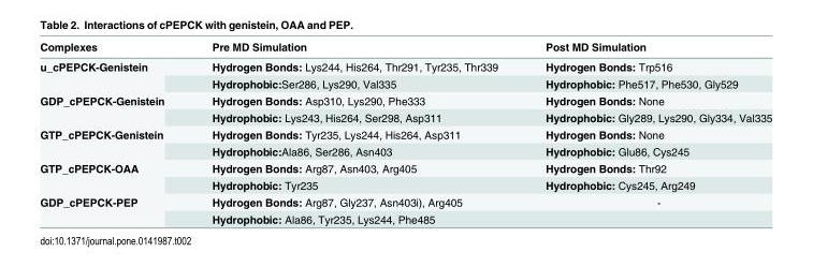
<table><thead><tr><td>Complexes</td><td>Pre MD Simulation</td><td>Post MD Simulation</td></tr></thead><tbody><tr><td rowspan="2">u_cPEPCK-Genistein</td><td>Hydrogen Bonds: Lys244, His264, Thr291, Tyr235, Thr339</td><td>Hydrogen Bonds: Trp516</td></tr><tr><td>Hydrophobic:Ser286, Lys290, Val335</td><td>Hydrophobic: Phe517, Phe530, Gly529</td></tr><tr><td rowspan="2">GDP_cPEPCK-Genistein</td><td>Hydrogen Bonds: Asp310, Lys290, Phe333</td><td>Hydrogen Bonds: None</td></tr><tr><td>Hydrophobic: Lys243, His264, Ser298, Asp311</td><td>Hydrophobic: Gly289, Lys290, Gly334, Val335</td></tr><tr><td rowspan="2">GTP_cPEPCK-Genistein</td><td>Hydrogen Bonds: Tyr235, Lys244, His264, Asp311</td><td>Hydrogen Bonds: None</td></tr><tr><td>Hydrophobic:Ala86, Ser286, Asn403</td><td>Hydrophobic: Glu86, Cys245</td></tr><tr><td rowspan="2">GTP_cPEPCK-OAA</td><td>Hydrogen Bonds: Arg87, Asn403, Arg405</td><td>Hydrogen Bonds: Thr92</td></tr><tr><td>Hydrophobic: Tyr235</td><td>Hydrophobic: Cys245, Arg249</td></tr><tr><td rowspan="2">GDP_cPEPCK-PEP</td><td>Hydrogen Bonds: Arg87, Gly237, Asn403i), Arg405</td><td>-</td></tr><tr><td>Hydrophobic: Ala86, Tyr235, Lys244, Phe485</td><td></td></tr></tbody></table>